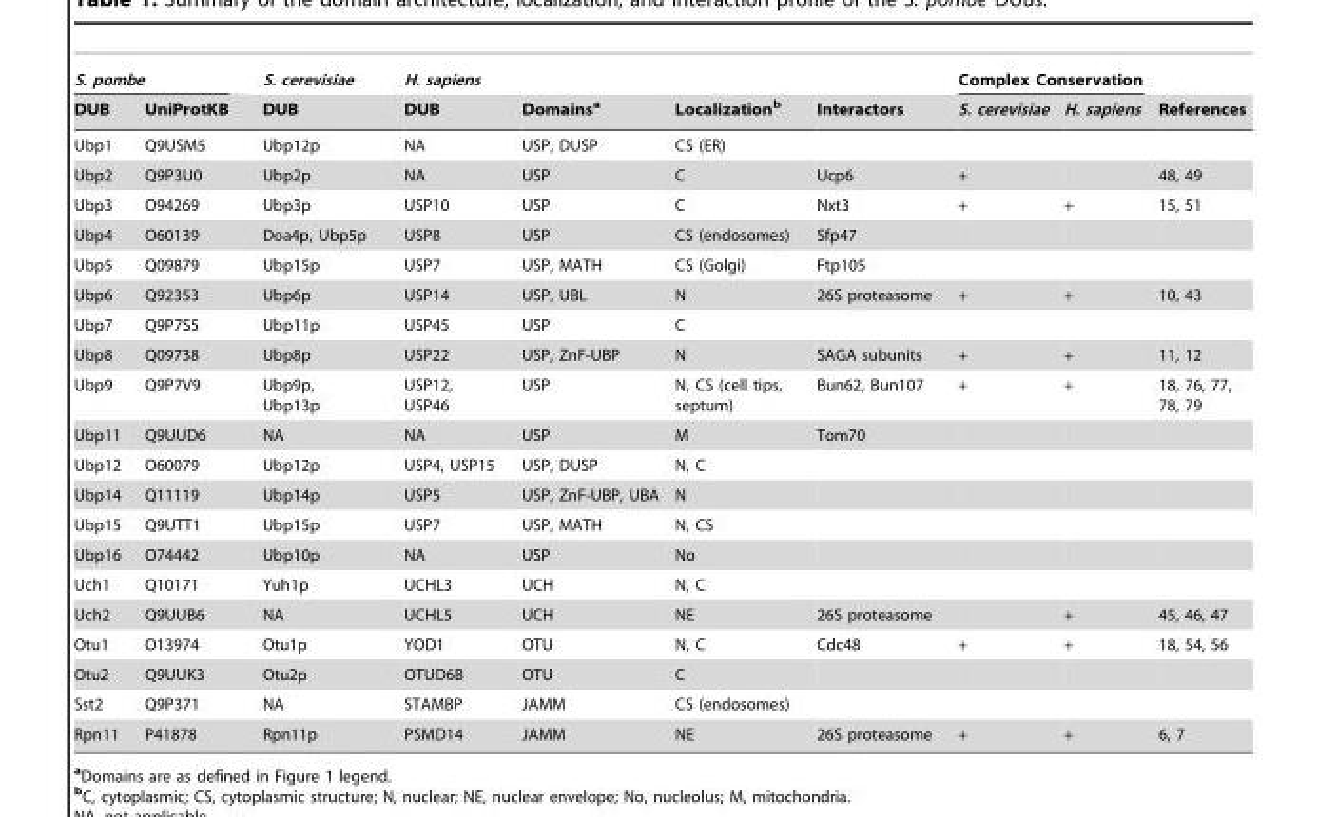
<table><thead><tr><td colspan="2">S. pombe</td><td rowspan="2">S. cerevisiae DUB</td><td rowspan="2">H. sapiens DUB</td><td rowspan="2">Domains<sup>a</sup></td><td rowspan="2">Localization<sup>b</sup></td><td rowspan="2">Interactors</td><td colspan="2">Complex Conservation</td><td rowspan="2">References</td></tr><tr><td>DUB</td><td>UniProtKB</td><td>S. cerevisiae</td><td>H. sapiens</td></tr></thead><tbody><tr><td>Ubp1</td><td>Q9USM5</td><td>Ubp12p</td><td>NA</td><td>USP, DUSP</td><td>CS (ER)</td><td></td><td></td><td></td><td></td></tr><tr><td>Ubp2</td><td>Q9P3U0</td><td>Ubp2p</td><td>NA</td><td>USP</td><td>C</td><td>Ucp6</td><td>+</td><td></td><td>48, 49</td></tr><tr><td>Ubp3</td><td>O94269</td><td>Ubp3p</td><td>USP10</td><td>USP</td><td>C</td><td>Nxt3</td><td>+</td><td>+</td><td>15, 51</td></tr><tr><td>Ubp4</td><td>O60139</td><td>Doa4p, Ubp5p</td><td>USP8</td><td>USP</td><td>CS (endosomes)</td><td>Sfp47</td><td></td><td></td><td></td></tr><tr><td>Ubp5</td><td>Q09879</td><td>Ubp15p</td><td>USP7</td><td>USP, MATH</td><td>CS (Golgi)</td><td>Ftp105</td><td></td><td></td><td></td></tr><tr><td>Ubp6</td><td>Q92353</td><td>Ubp6p</td><td>USP14</td><td>USP, UBL</td><td>N</td><td>26S proteasome</td><td>+</td><td>+</td><td>10, 43</td></tr><tr><td>Ubp7</td><td>Q9P7S5</td><td>Ubp11p</td><td>USP45</td><td>USP</td><td>C</td><td></td><td></td><td></td><td></td></tr><tr><td>Ubp8</td><td>Q09738</td><td>Ubp8p</td><td>USP22</td><td>USP, ZnF-UBP</td><td>N</td><td>SAGA subunits</td><td>+</td><td>+</td><td>11, 12</td></tr><tr><td>Ubp9</td><td>Q9P7V9</td><td>Ubp9p, Ubp13p</td><td>USP12, USP46</td><td>USP</td><td>N, CS (cell tips, septum)</td><td>Bun62, Bun107</td><td>+</td><td>+</td><td>18, 76, 77, 78, 79</td></tr><tr><td>Ubp11</td><td>Q9UUD6</td><td>NA</td><td>NA</td><td>USP</td><td>M</td><td>Tom70</td><td></td><td></td><td></td></tr><tr><td>Ubp12</td><td>O60079</td><td>Ubp12p</td><td>USP4, USP15</td><td>USP, DUSP</td><td>N, C</td><td></td><td></td><td></td><td></td></tr><tr><td>Ubp14</td><td>Q11119</td><td>Ubp14p</td><td>USP5</td><td>USP, ZnF-UBP, UBA</td><td>N</td><td></td><td></td><td></td><td></td></tr><tr><td>Ubp15</td><td>Q9UTT1</td><td>Ubp15p</td><td>USP7</td><td>USP, MATH</td><td>N, CS</td><td></td><td></td><td></td><td></td></tr><tr><td>Ubp16</td><td>O74442</td><td>Ubp10p</td><td>NA</td><td>USP</td><td>No</td><td></td><td></td><td></td><td></td></tr><tr><td>Uch1</td><td>Q10171</td><td>Yuh1p</td><td>UCHL3</td><td>UCH</td><td>N, C</td><td></td><td></td><td></td><td></td></tr><tr><td>Uch2</td><td>Q9UUB6</td><td>NA</td><td>UCHL5</td><td>UCH</td><td>NE</td><td>26S proteasome</td><td></td><td>+</td><td>45, 46, 47</td></tr><tr><td>Otu1</td><td>O13974</td><td>Otu1p</td><td>YOD1</td><td>OTU</td><td>N, C</td><td>Cdc48</td><td>+</td><td>+</td><td>18, 54, 56</td></tr><tr><td>Otu2</td><td>Q9UUK3</td><td>Otu2p</td><td>OTUD6B</td><td>OTU</td><td>C</td><td></td><td></td><td></td><td></td></tr><tr><td>Sst2</td><td>Q9P371</td><td>NA</td><td>STAMBP</td><td>JAMM</td><td>CS (endosomes)</td><td></td><td></td><td></td><td></td></tr><tr><td>Rpn11</td><td>P41878</td><td>Rpn11p</td><td>PSMD14</td><td>JAMM</td><td>NE</td><td>26S proteasome</td><td>+</td><td>+</td><td>6, 7</td></tr></tbody></table>